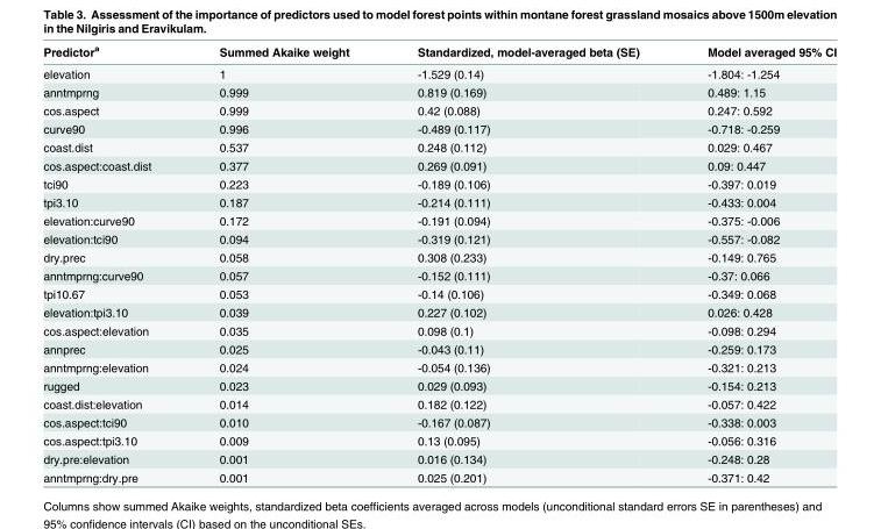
<table><thead><tr><td>Predictor<sup>a</sup></td><td>Summed Akaike weight</td><td>Standardized, model-averaged beta (SE)</td><td>Model averaged 95% CI</td></tr></thead><tbody><tr><td>elevation</td><td>1</td><td>-1.529 (0.14)</td><td>-1.804: -1.254</td></tr><tr><td>anntmprng</td><td>0.999</td><td>0.819 (0.169)</td><td>0.489: 1.15</td></tr><tr><td>cos.aspect</td><td>0.999</td><td>0.42 (0.088)</td><td>0.247: 0.592</td></tr><tr><td>curve90</td><td>0.996</td><td>-0.489 (0.117)</td><td>-0.718: -0.259</td></tr><tr><td>coast.dist</td><td>0.537</td><td>0.248 (0.112)</td><td>0.029: 0.467</td></tr><tr><td>cos.aspect:coast.dist</td><td>0.377</td><td>0.269 (0.091)</td><td>0.09: 0.447</td></tr><tr><td>tci90</td><td>0.223</td><td>-0.189 (0.106)</td><td>-0.397: 0.019</td></tr><tr><td>tpi3.10</td><td>0.187</td><td>-0.214 (0.111)</td><td>-0.433: 0.004</td></tr><tr><td>elevation:curve90</td><td>0.172</td><td>-0.191 (0.094)</td><td>-0.375: -0.006</td></tr><tr><td>elevation:tci90</td><td>0.094</td><td>-0.319 (0.121)</td><td>-0.557: -0.082</td></tr><tr><td>dry.prec</td><td>0.058</td><td>0.308 (0.233)</td><td>-0.149: 0.765</td></tr><tr><td>anntmprng:curve90</td><td>0.057</td><td>-0.152 (0.111)</td><td>-0.37: 0.066</td></tr><tr><td>tpi10.67</td><td>0.053</td><td>-0.14 (0.106)</td><td>-0.349: 0.068</td></tr><tr><td>elevation:tpi3.10</td><td>0.039</td><td>0.227 (0.102)</td><td>0.026: 0.428</td></tr><tr><td>cos.aspect:elevation</td><td>0.035</td><td>0.098 (0.1)</td><td>-0.098: 0.294</td></tr><tr><td>annprec</td><td>0.025</td><td>-0.043 (0.11)</td><td>-0.259: 0.173</td></tr><tr><td>anntmprng:elevation</td><td>0.024</td><td>-0.054 (0.136)</td><td>-0.321: 0.213</td></tr><tr><td>rugged</td><td>0.023</td><td>0.029 (0.093)</td><td>-0.154: 0.213</td></tr><tr><td>coast.dist:elevation</td><td>0.014</td><td>0.182 (0.122)</td><td>-0.057: 0.422</td></tr><tr><td>cos.aspect:tci90</td><td>0.010</td><td>-0.167 (0.087)</td><td>-0.338: 0.003</td></tr><tr><td>cos.aspect:tpi3.10</td><td>0.009</td><td>0.13 (0.095)</td><td>-0.056: 0.316</td></tr><tr><td>dry.pre:elevation</td><td>0.001</td><td>0.016 (0.134)</td><td>-0.248: 0.28</td></tr><tr><td>anntmprng:dry.pre</td><td>0.001</td><td>0.025 (0.201)</td><td>-0.371: 0.42</td></tr></tbody></table>